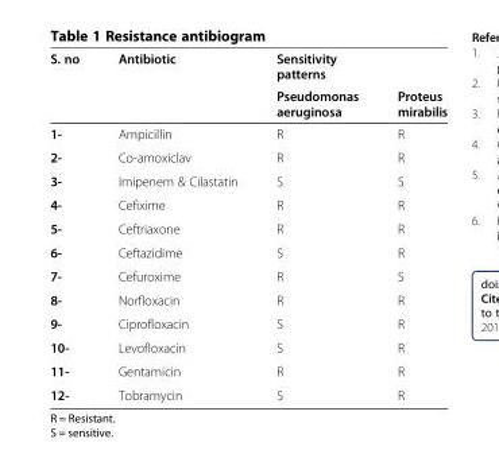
<table><thead><tr><td rowspan="2">S. no</td><td rowspan="2">Antibiotic</td><td rowspan="2">Sensitivity patterns Pseudomonas aeruginosa</td><td rowspan="2">Proteus mirabilis</td></tr><tr></tr></thead><tbody><tr><td>1-</td><td>Ampicillin</td><td>R</td><td>R</td></tr><tr><td>2-</td><td>Co-amoxiclav</td><td>R</td><td>R</td></tr><tr><td>3-</td><td>Imipenem &amp; Cilastatin</td><td>S</td><td>S</td></tr><tr><td>4-</td><td>Cefixime</td><td>R</td><td>R</td></tr><tr><td>5-</td><td>Ceftriaxone</td><td>R</td><td>R</td></tr><tr><td>6-</td><td>Ceftazidime</td><td>S</td><td>R</td></tr><tr><td>7-</td><td>Cefuroxime</td><td>R</td><td>S</td></tr><tr><td>8-</td><td>Norfloxacin</td><td>R</td><td>R</td></tr><tr><td>9-</td><td>Ciprofloxacin</td><td>S</td><td>R</td></tr><tr><td>10-</td><td>Levofloxacin</td><td>S</td><td>R</td></tr><tr><td>11-</td><td>Gentamicin</td><td>R</td><td>R</td></tr><tr><td>12-</td><td>Tobramycin</td><td>S</td><td>R</td></tr></tbody></table>